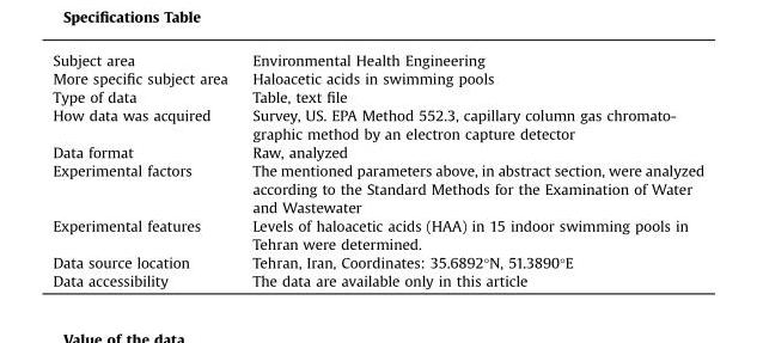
<table><tbody><tr><td>Subject area</td><td>Environmental Health Engineering</td></tr><tr><td>More specific subject area</td><td>Haloacetic acids in swimming pools</td></tr><tr><td>Type of data</td><td>Table, text file</td></tr><tr><td>How data was acquired</td><td>Survey, US. EPA Method 552.3, capillary column gas chromato- graphic method by an electron capture detector</td></tr><tr><td>Data format</td><td>Raw, analyzed</td></tr><tr><td>Experimental factors</td><td>The mentioned parameters above, in abstract section, were analyzed according to the Standard Methods for the Examination of Water and Wastewater</td></tr><tr><td>Experimental features</td><td>Levels of haloacetic acids (HAA) in 15 indoor swimming pools in Tehran were determined.</td></tr><tr><td>Data source location</td><td>Tehran, Iran, Coordinates: 35.6892°N, 51.3890°E</td></tr><tr><td>Data accessibility</td><td>The data are available only in this article</td></tr></tbody></table>